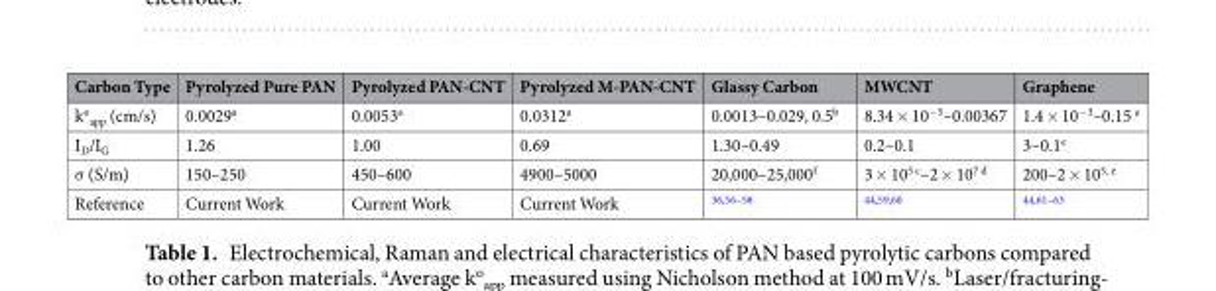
<table><thead><tr><td>Carbon Type</td><td>Pyrolyzed Pure PAN</td><td>Pyrolyzed PAN-CNT</td><td>Pyrolyzed M-PAN-CNT</td><td>Glassy Carbon</td><td>MWCNT</td><td>Graphene</td></tr></thead><tbody><tr><td>k<sup>o</sup> <sub>app</sub> (cm/s)</td><td>0.0029<sup>a</sup></td><td>0.0053<sup>a</sup></td><td>0.0312<sup>a</sup></td><td>0.0013–0.029, 0.5<sup>b</sup></td><td>8.34 × 10<sup>−5</sup>–0.00367</td><td>1.4 × 10<sup>−3</sup>–0.15 <sup>e</sup></td></tr><tr><td>I<sub>D</sub>/I<sub>G</sub></td><td>1.26</td><td>1.00</td><td>0.69</td><td>1.30–0.49</td><td>0.2–0.1</td><td>3–0.1<sup>e</sup></td></tr><tr><td>σ (S/m)</td><td>150–250</td><td>450–600</td><td>4900–5000</td><td>20,000–25,000<sup>f</sup></td><td>3 × 10<sup>5 c</sup>–2 × 10<sup>7 d</sup></td><td>200–2 × 10<sup>5, e</sup></td></tr><tr><td>Reference</td><td>Current Work</td><td>Current Work</td><td>Current Work</td><td><sup>36,56–58</sup></td><td><sup>44,59,60</sup></td><td><sup>44,61–63</sup></td></tr></tbody></table>